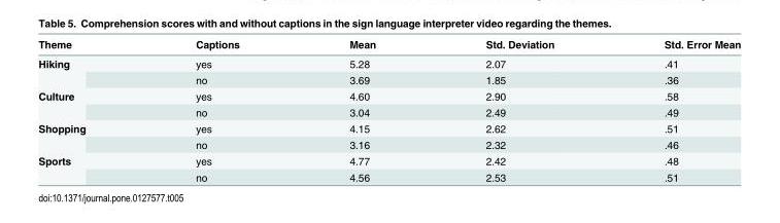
<table><thead><tr><td>Theme</td><td>Captions</td><td>Mean</td><td>Std. Deviation</td><td>Std. Error Mean</td></tr></thead><tbody><tr><td rowspan="2">Hiking</td><td>yes</td><td>5.28</td><td>2.07</td><td>.41</td></tr><tr><td>no</td><td>3.69</td><td>1.85</td><td>.36</td></tr><tr><td rowspan="2">Culture</td><td>yes</td><td>4.60</td><td>2.90</td><td>.58</td></tr><tr><td>no</td><td>3.04</td><td>2.49</td><td>.49</td></tr><tr><td rowspan="2">Shopping</td><td>yes</td><td>4.15</td><td>2.62</td><td>.51</td></tr><tr><td>no</td><td>3.16</td><td>2.32</td><td>.46</td></tr><tr><td rowspan="2">Sports</td><td>yes</td><td>4.77</td><td>2.42</td><td>.48</td></tr><tr><td>no</td><td>4.56</td><td>2.53</td><td>.51</td></tr></tbody></table>